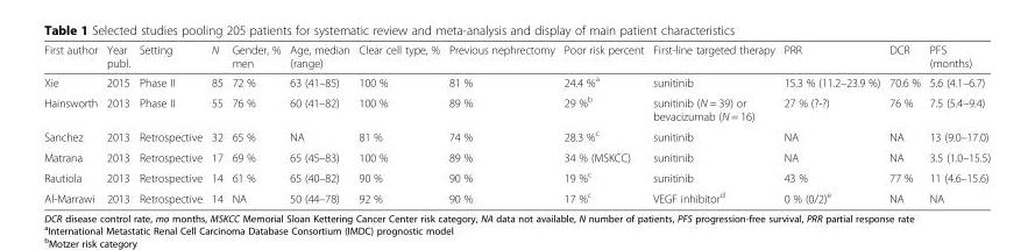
<table><thead><tr><td>First author</td><td>Year publ.</td><td>Setting</td><td>N</td><td>Gender, % men</td><td>Age, median (range)</td><td>Clear cell type, %</td><td>Previous nephrectomy</td><td>Poor risk percent</td><td>First-line targeted therapy</td><td>PRR</td><td>DCR</td><td>PFS (months)</td></tr></thead><tbody><tr><td>Xie</td><td>2015</td><td>Phase II</td><td>85</td><td>72 %</td><td>63 (41–85)</td><td>100 %</td><td>81 %</td><td>24.4 %<sup>a</sup></td><td>sunitinib</td><td>15.3 % (11.2–23.9 %)</td><td>70.6 %</td><td>5.6 (4.1–6.7)</td></tr><tr><td>Hainsworth</td><td>2013</td><td>Phase II</td><td>55</td><td>76 %</td><td>60 (41–82)</td><td>100 %</td><td>89 %</td><td>29 %<sup>b</sup></td><td>sunitinib (N = 39) or bevacizumab (N = 16)</td><td>27 % (?-?)</td><td>76 %</td><td>7.5 (5.4–9.4)</td></tr><tr><td>Sanchez</td><td>2013</td><td>Retrospective</td><td>32</td><td>65 %</td><td>NA</td><td>81 %</td><td>74 %</td><td>28.3 %<sup>c</sup></td><td>sunitinib</td><td>NA</td><td>NA</td><td>13 (9.0–17.0)</td></tr><tr><td>Matrana</td><td>2013</td><td>Retrospective</td><td>17</td><td>69 %</td><td>65 (45–83)</td><td>100 %</td><td>89 %</td><td>34 % (MSKCC)</td><td>sunitinib</td><td>NA</td><td>NA</td><td>3.5 (1.0–15.5)</td></tr><tr><td>Rautiola</td><td>2013</td><td>Retrospective</td><td>14</td><td>61 %</td><td>65 (40–82)</td><td>90 %</td><td>90 %</td><td>19 %<sup>c</sup></td><td>sunitinib</td><td>43 %</td><td>77 %</td><td>11 (4.6–15.6)</td></tr><tr><td>Al-Marrawi</td><td>2013</td><td>Retrospective</td><td>14</td><td>NA</td><td>50 (44–78)</td><td>92 %</td><td>90 %</td><td>17 %<sup>c</sup></td><td>VEGF inhibitor<sup>d</sup></td><td>0 % (0/2)<sup>e</sup></td><td>NA</td><td>NA</td></tr></tbody></table>